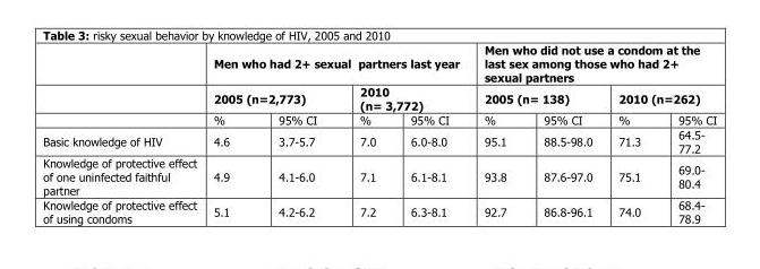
<table><thead><tr><td rowspan="3"></td><td colspan="4">Men who had 2+ sexual partners last year</td><td colspan="4">Men who did not use a condom at the last sex among those who had 2+ sexual partners</td></tr><tr><td colspan="2">2005 (n=2,773)</td><td colspan="2">2010 (n= 3,772)</td><td colspan="2">2005 (n= 138)</td><td colspan="2">2010 (n=262)</td></tr><tr><td>%</td><td>95% CI</td><td>%</td><td>95% CI</td><td>%</td><td>95% CI</td><td>%</td><td>95% CI</td></tr></thead><tbody><tr><td>Basic knowledge of HIV</td><td>4.6</td><td>3.7-5.7</td><td>7.0</td><td>6.0-8.0</td><td>95.1</td><td>88.5-98.0</td><td>71.3</td><td>64.5- 77.2</td></tr><tr><td>Knowledge of protective effect of one uninfected faithful partner</td><td>4.9</td><td>4.1-6.0</td><td>7.1</td><td>6.1-8.1</td><td>93.8</td><td>87.6-97.0</td><td>75.1</td><td>69.0- 80.4</td></tr><tr><td>Knowledge of protective effect of using condoms</td><td>5.1</td><td>4.2-6.2</td><td>7.2</td><td>6.3-8.1</td><td>92.7</td><td>86.8-96.1</td><td>74.0</td><td>68.4- 78.9</td></tr></tbody></table>